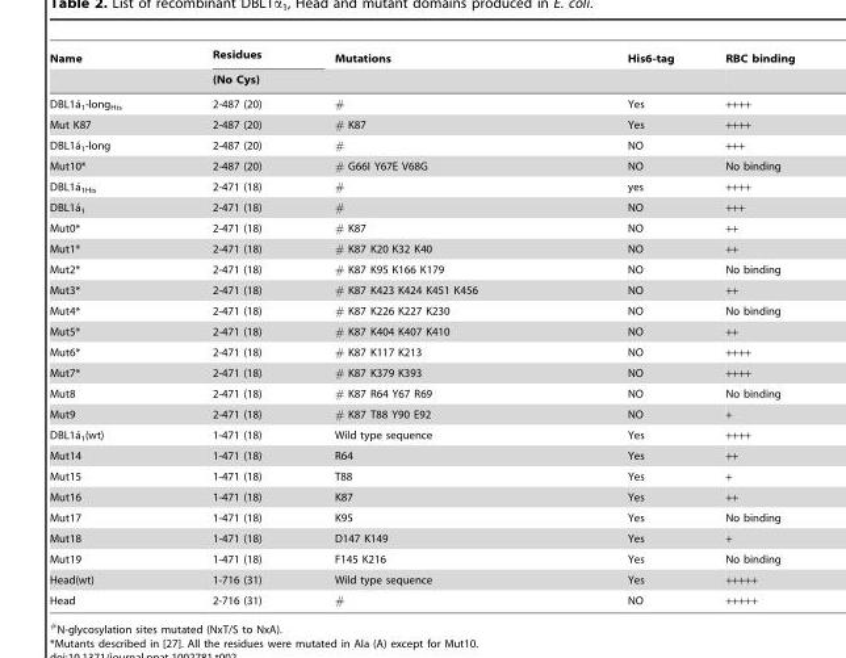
<table><thead><tr><td rowspan="2">Name</td><td rowspan="2">Residues (No Cys)</td><td rowspan="2">Mutations</td><td rowspan="2">His6-tag</td><td rowspan="2">RBC binding</td></tr><tr></tr></thead><tbody><tr><td>DBL1a´1-longHis</td><td>2-487 (20)</td><td>#</td><td>Yes</td><td>++++</td></tr><tr><td>Mut K87</td><td>2-487 (20)</td><td># K87</td><td>Yes</td><td>++++</td></tr><tr><td>DBL1a´1-long</td><td>2-487 (20)</td><td>#</td><td>NO</td><td>+++</td></tr><tr><td>Mut10*</td><td>2-487 (20)</td><td># G66I Y67E V68G</td><td>NO</td><td>No binding</td></tr><tr><td>DBL1a´1His</td><td>2-471 (18)</td><td>#</td><td>yes</td><td>++++</td></tr><tr><td>DBL1a´1</td><td>2-471 (18)</td><td>#</td><td>NO</td><td>+++</td></tr><tr><td>Mut0*</td><td>2-471 (18)</td><td># K87</td><td>NO</td><td>++</td></tr><tr><td>Mut1*</td><td>2-471 (18)</td><td># K87 K20 K32 K40</td><td>NO</td><td>++</td></tr><tr><td>Mut2*</td><td>2-471 (18)</td><td># K87 K95 K166 K179</td><td>NO</td><td>No binding</td></tr><tr><td>Mut3*</td><td>2-471 (18)</td><td># K87 K423 K424 K451 K456</td><td>NO</td><td>++</td></tr><tr><td>Mut4*</td><td>2-471 (18)</td><td># K87 K226 K227 K230</td><td>NO</td><td>No binding</td></tr><tr><td>Mut5*</td><td>2-471 (18)</td><td># K87 K404 K407 K410</td><td>NO</td><td>++</td></tr><tr><td>Mut6*</td><td>2-471 (18)</td><td># K87 K117 K213</td><td>NO</td><td>++++</td></tr><tr><td>Mut7*</td><td>2-471 (18)</td><td># K87 K379 K393</td><td>NO</td><td>++++</td></tr><tr><td>Mut8</td><td>2-471 (18)</td><td># K87 R64 Y67 R69</td><td>NO</td><td>No binding</td></tr><tr><td>Mut9</td><td>2-471 (18)</td><td># K87 T88 Y90 E92</td><td>NO</td><td>+</td></tr><tr><td>DBL1a´1(wt)</td><td>1-471 (18)</td><td>Wild type sequence</td><td>Yes</td><td>++++</td></tr><tr><td>Mut14</td><td>1-471 (18)</td><td>R64</td><td>Yes</td><td>++</td></tr><tr><td>Mut15</td><td>1-471 (18)</td><td>T88</td><td>Yes</td><td>+</td></tr><tr><td>Mut16</td><td>1-471 (18)</td><td>K87</td><td>Yes</td><td>++</td></tr><tr><td>Mut17</td><td>1-471 (18)</td><td>K95</td><td>Yes</td><td>No binding</td></tr><tr><td>Mut18</td><td>1-471 (18)</td><td>D147 K149</td><td>Yes</td><td>+</td></tr><tr><td>Mut19</td><td>1-471 (18)</td><td>F145 K216</td><td>Yes</td><td>No binding</td></tr><tr><td>Head(wt)</td><td>1-716 (31)</td><td>Wild type sequence</td><td>Yes</td><td>+++++</td></tr><tr><td>Head</td><td>2-716 (31)</td><td>#</td><td>NO</td><td>+++++</td></tr></tbody></table>